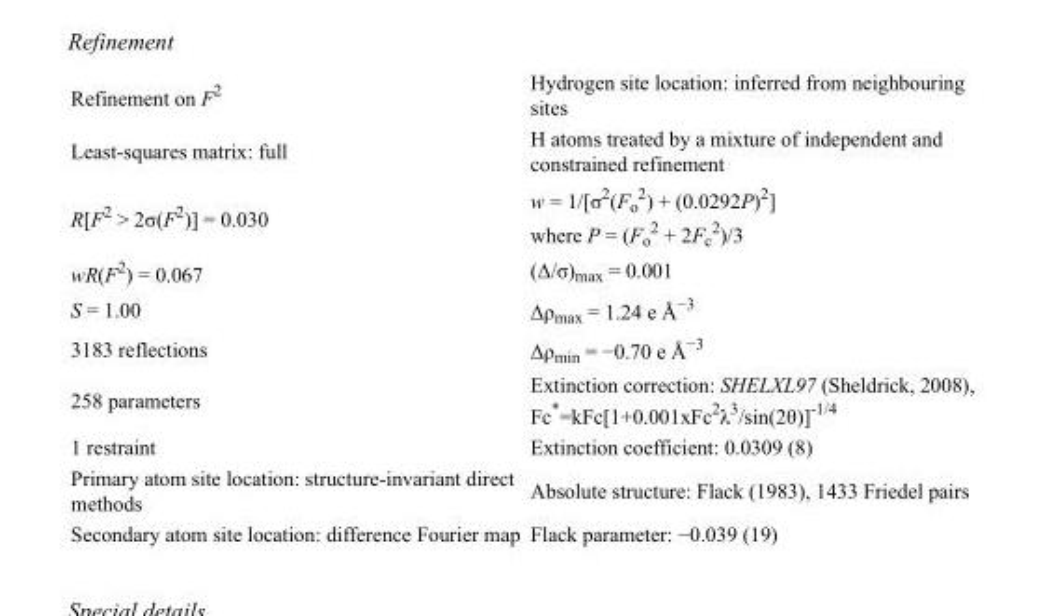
<table><tbody><tr><td>Refinement on F<sup>2</sup></td><td>Hydrogen site location: inferred from neighbouring sites</td></tr><tr><td>Least-squares matrix: full</td><td>H atoms treated by a mixture of independent and constrained refinement</td></tr><tr><td>R[F<sup>2</sup> &gt; 2σ(F<sup>2</sup>)] = 0.030</td><td>w = 1/[σ<sup>2</sup>(F<sub>o</sub> <sup>2</sup>) + (0.0292P)<sup>2</sup>] where P = (F<sub>o</sub> <sup>2</sup> + 2F<sub>c</sub> <sup>2</sup>)/3</td></tr><tr><td>wR(F<sup>2</sup>) = 0.067</td><td>(Δ/σ)<sub>max</sub> = 0.001</td></tr><tr><td>S = 1.00</td><td>Δρ<sub>max</sub> = 1.24 e Å<sup>−3</sup></td></tr><tr><td>3183 reflections</td><td>Δρ<sub>min</sub> = −0.70 e Å<sup>−3</sup></td></tr><tr><td>258 parameters</td><td>Extinction correction: SHELXL97 (Sheldrick, 2008), Fc*=kFc[1+0.001xFc<sup>2</sup>λ<sup>3</sup>/sin(2θ)]<sup>-1/4</sup></td></tr><tr><td>1 restraint</td><td>Extinction coefficient: 0.0309 (8)</td></tr><tr><td>Primary atom site location: structure-invariant direct methods</td><td>Absolute structure: Flack (1983), 1433 Friedel pairs</td></tr><tr><td>Secondary atom site location: difference Fourier map</td><td>Flack parameter: −0.039 (19)</td></tr></tbody></table>